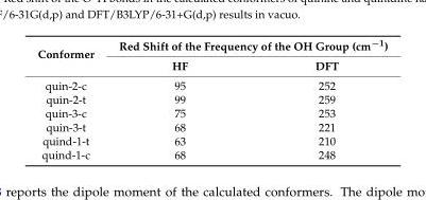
<table><thead><tr><td rowspan="2">Conformer</td><td colspan="2">Red Shift of the Frequency of the OH Group (cm<sup>−1</sup>)</td></tr><tr><td>HF</td><td>DFT</td></tr></thead><tbody><tr><td>quin-2-c</td><td>95</td><td>252</td></tr><tr><td>quin-2-t</td><td>99</td><td>259</td></tr><tr><td>quin-3-c</td><td>75</td><td>253</td></tr><tr><td>quin-3-t</td><td>68</td><td>221</td></tr><tr><td>quind-1-t</td><td>63</td><td>210</td></tr><tr><td>quind-1-c</td><td>68</td><td>248</td></tr></tbody></table>